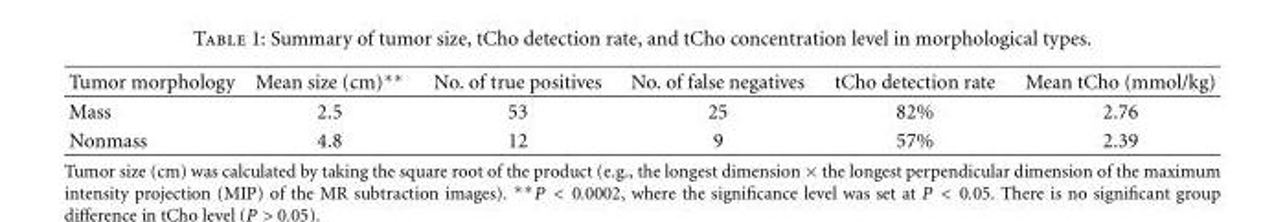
<table><thead><tr><td>Tumor morphology</td><td>Mean size (cm)∗∗</td><td>No. of true positives</td><td>No. of false negatives</td><td>tCho detection rate</td><td>Mean tCho (mmol/kg)</td></tr></thead><tbody><tr><td>Mass</td><td>2.5</td><td>53</td><td>25</td><td>82%</td><td>2.76</td></tr><tr><td>Nonmass</td><td>4.8</td><td>12</td><td>9</td><td>57%</td><td>2.39</td></tr></tbody></table>